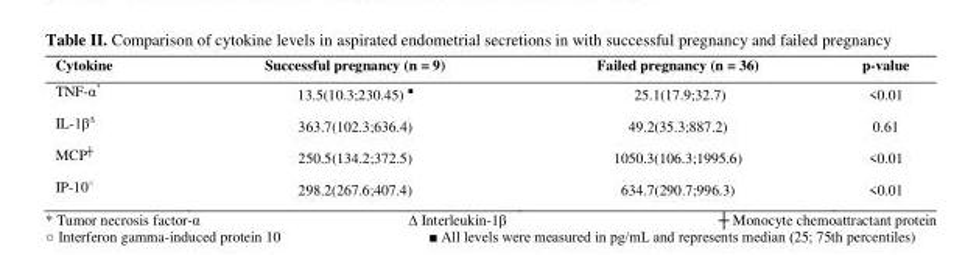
<table><thead><tr><td>Cytokine</td><td>Successful pregnancy (n = 9)</td><td>Failed pregnancy (n = 36)</td><td>p-value</td></tr></thead><tbody><tr><td>TNF-α*</td><td>13.5(10.3;230.45) ■</td><td>25.1(17.9;32.7)</td><td>&lt;0.01</td></tr><tr><td>IL-1β∆</td><td>363.7(102.3;636.4)</td><td>49.2(35.3;887.2)</td><td>0.61</td></tr><tr><td>MCP┼</td><td>250.5(134.2;372.5)</td><td>1050.3(106.3;1995.6)</td><td>&lt;0.01</td></tr><tr><td>IP-10○</td><td>298.2(267.6;407.4)</td><td>634.7(290.7;996.3)</td><td>&lt;0.01</td></tr></tbody></table>